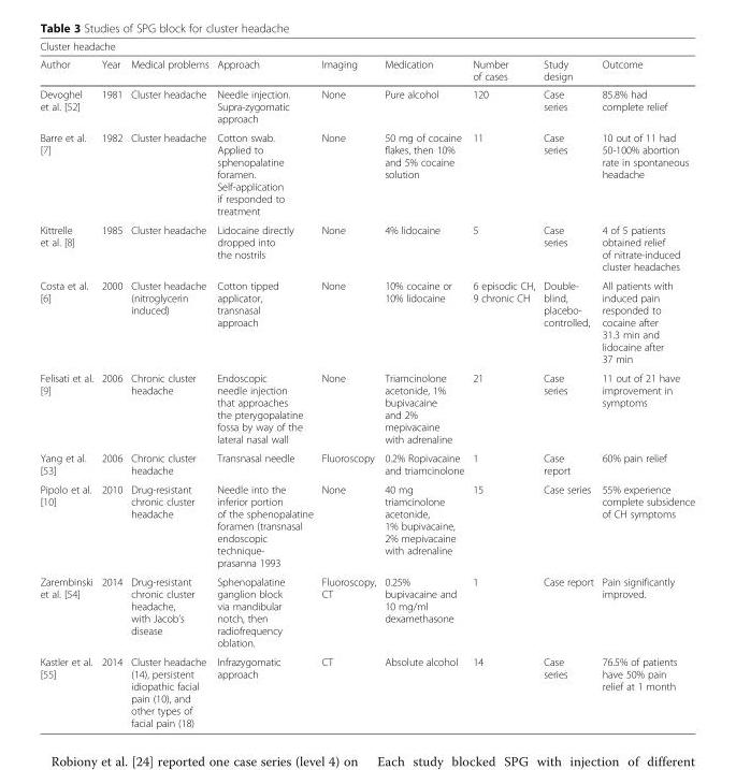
<table><thead><tr><td colspan="9">Cluster headache</td></tr><tr><td>Author</td><td>Year</td><td>Medical problems</td><td>Approach</td><td>Imaging</td><td>Medication</td><td>Number of cases</td><td>Study design</td><td>Outcome</td></tr></thead><tbody><tr><td>Devoghel et al. [52]</td><td>1981</td><td>Cluster headache</td><td>Needle injection. Supra-zygomatic approach</td><td>None</td><td>Pure alcohol</td><td>120</td><td>Case series</td><td>85.8% had complete relief</td></tr><tr><td>Barre et al. [7]</td><td>1982</td><td>Cluster headache</td><td>Cotton swab. Applied to sphenopalatine foramen. Self-application if responded to treatment</td><td>None</td><td>50 mg of cocaine flakes, then 10% and 5% cocaine solution</td><td>11</td><td>Case series</td><td>10 out of 11 had 50-100% abortion rate in spontaneous headache</td></tr><tr><td>Kittrelle et al. [8]</td><td>1985</td><td>Cluster headache</td><td>Lidocaine directly dropped into the nostrils</td><td>None</td><td>4% lidocaine</td><td>5</td><td>Case series</td><td>4 of 5 patients obtained relief of nitrate-induced cluster headaches</td></tr><tr><td>Costa et al. [6]</td><td>2000</td><td>Cluster headache (nitroglycerin induced)</td><td>Cotton tipped applicator, transnasal approach</td><td>None</td><td>10% cocaine or 10% lidocaine</td><td>6 episodic CH, 9 chronic CH</td><td>Double- blind, placebo- controlled,</td><td>All patients with induced pain responded to cocaine after 31.3 min and lidocaine after 37 min</td></tr><tr><td>Felisati et al. [9]</td><td>2006</td><td>Chronic cluster headache</td><td>Endoscopic needle injection that approaches the pterygopalatine fossa by way of the lateral nasal wall</td><td>None</td><td>Triamcinolone acetonide, 1% bupivacaine and 2% mepivacaine with adrenaline</td><td>21</td><td>Case series</td><td>11 out of 21 have improvement in symptoms</td></tr><tr><td>Yang et al. [53]</td><td>2006</td><td>Chronic cluster headache</td><td>Transnasal needle</td><td>Fluoroscopy</td><td>0.2% Ropivacaine and triamcinolone</td><td>1</td><td>Case report</td><td>60% pain relief</td></tr><tr><td>Pipolo et al. [10]</td><td>2010</td><td>Drug-resistant chronic cluster headache</td><td>Needle into the inferior portion of the sphenopalatine foramen (transnasal endoscopic technique- prasanna 1993</td><td>None</td><td>40 mg triamcinolone acetonide, 1% bupivacaine, 2% mepivacaine with adrenaline</td><td>15</td><td>Case series</td><td>55% experience complete subsidence of CH symptoms</td></tr><tr><td>Zarembinski et al. [54]</td><td>2014</td><td>Drug-resistant chronic cluster headache, with Jacob’s disease</td><td>Sphenopalatine ganglion block via mandibular notch, then radiofrequency oblation.</td><td>Fluoroscopy, CT</td><td>0.25% bupivacaine and 10 mg/ml dexamethasone</td><td>1</td><td>Case report</td><td>Pain significantly improved.</td></tr><tr><td>Kastler et al. [55]</td><td>2014</td><td>Cluster headache (14), persistent idiopathic facial pain (10), and other types of facial pain (18)</td><td>Infrazygomatic approach</td><td>CT</td><td>Absolute alcohol</td><td>14</td><td>Case series</td><td>76.5% of patients have 50% pain relief at 1 month</td></tr></tbody></table>